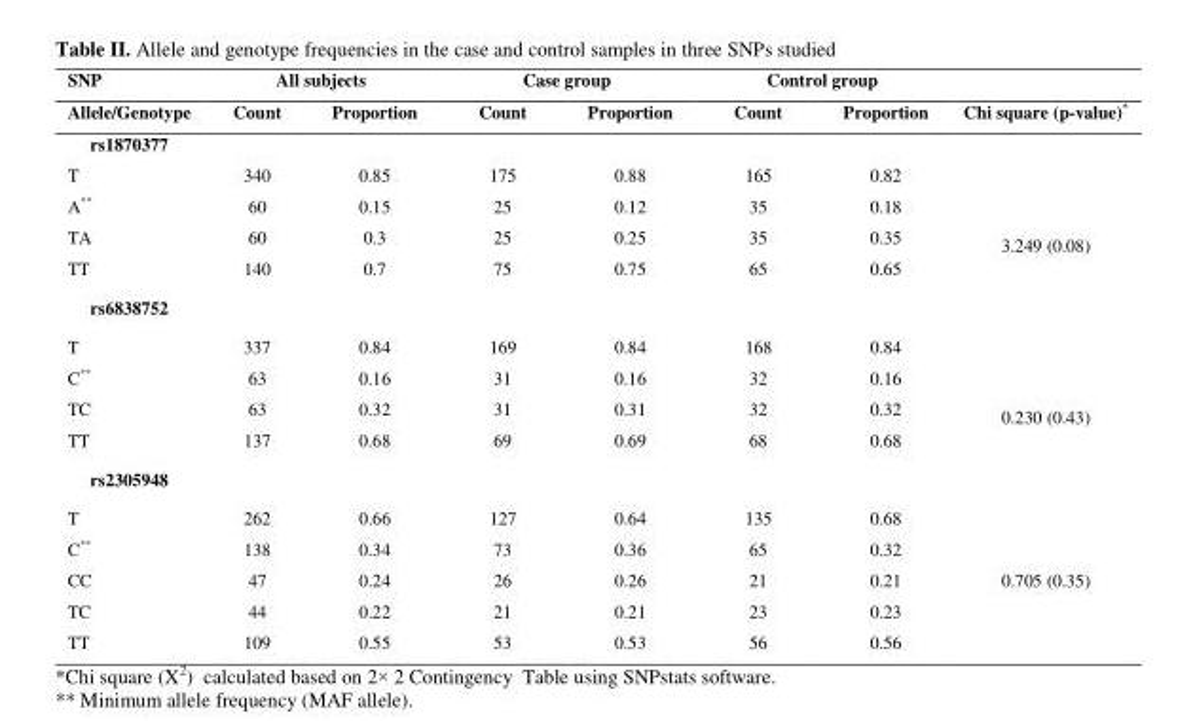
<table><thead><tr><td rowspan="2">SNP Allele/Genotype</td><td colspan="2">All subjects</td><td colspan="2">Case group</td><td colspan="2">Control group</td><td rowspan="2">Chi square (p-value)*</td></tr><tr><td>Count</td><td>Proportion</td><td>Count</td><td>Proportion</td><td>Count</td><td>Proportion</td></tr></thead><tbody><tr><td colspan="8">rs1870377</td></tr><tr><td>T</td><td>340</td><td>0.85</td><td>175</td><td>0.88</td><td>165</td><td>0.82</td><td rowspan="5">3.249 (0.08)</td></tr><tr><td>A**</td><td>60</td><td>0.15</td><td>25</td><td>0.12</td><td>35</td><td>0.18</td></tr><tr><td>TA</td><td>60</td><td>0.3</td><td>25</td><td>0.25</td><td>35</td><td>0.35</td></tr><tr><td>TT</td><td>140</td><td>0.7</td><td>75</td><td>0.75</td><td>65</td><td>0.65</td></tr><tr><td colspan="7">rs6838752</td></tr><tr><td>T</td><td>337</td><td>0.84</td><td>169</td><td>0.84</td><td>168</td><td>0.84</td><td rowspan="5">0.230 (0.43)</td></tr><tr><td>C**</td><td>63</td><td>0.16</td><td>31</td><td>0.16</td><td>32</td><td>0.16</td></tr><tr><td>TC</td><td>63</td><td>0.32</td><td>31</td><td>0.31</td><td>32</td><td>0.32</td></tr><tr><td>TT</td><td>137</td><td>0.68</td><td>69</td><td>0.69</td><td>68</td><td>0.68</td></tr><tr><td colspan="7">rs2305948</td></tr><tr><td>T</td><td>262</td><td>0.66</td><td>127</td><td>0.64</td><td>135</td><td>0.68</td><td rowspan="5">0.705 (0.35)</td></tr><tr><td>C**</td><td>138</td><td>0.34</td><td>73</td><td>0.36</td><td>65</td><td>0.32</td></tr><tr><td>CC</td><td>47</td><td>0.24</td><td>26</td><td>0.26</td><td>21</td><td>0.21</td></tr><tr><td>TC</td><td>44</td><td>0.22</td><td>21</td><td>0.21</td><td>23</td><td>0.23</td></tr><tr><td>TT</td><td>109</td><td>0.55</td><td>53</td><td>0.53</td><td>56</td><td>0.56</td></tr></tbody></table>